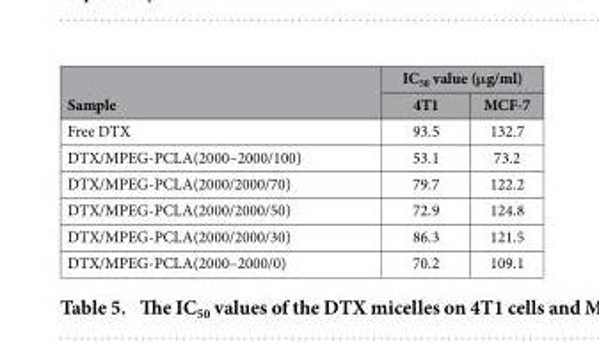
<table><thead><tr><td rowspan="2">Sample</td><td colspan="2">IC<sub>50</sub> value (μg/ml)</td></tr><tr><td>4T1</td><td>MCF-7</td></tr></thead><tbody><tr><td>Free DTX</td><td>93.5</td><td>132.7</td></tr><tr><td>DTX/MPEG-PCLA(2000–2000/100)</td><td>53.1</td><td>73.2</td></tr><tr><td>DTX/MPEG-PCLA(2000/2000/70)</td><td>79.7</td><td>122.2</td></tr><tr><td>DTX/MPEG-PCLA(2000/2000/50)</td><td>72.9</td><td>124.8</td></tr><tr><td>DTX/MPEG-PCLA(2000/2000/30)</td><td>86.3</td><td>121.5</td></tr><tr><td>DTX/MPEG-PCLA(2000–2000/0)</td><td>70.2</td><td>109.1</td></tr></tbody></table>